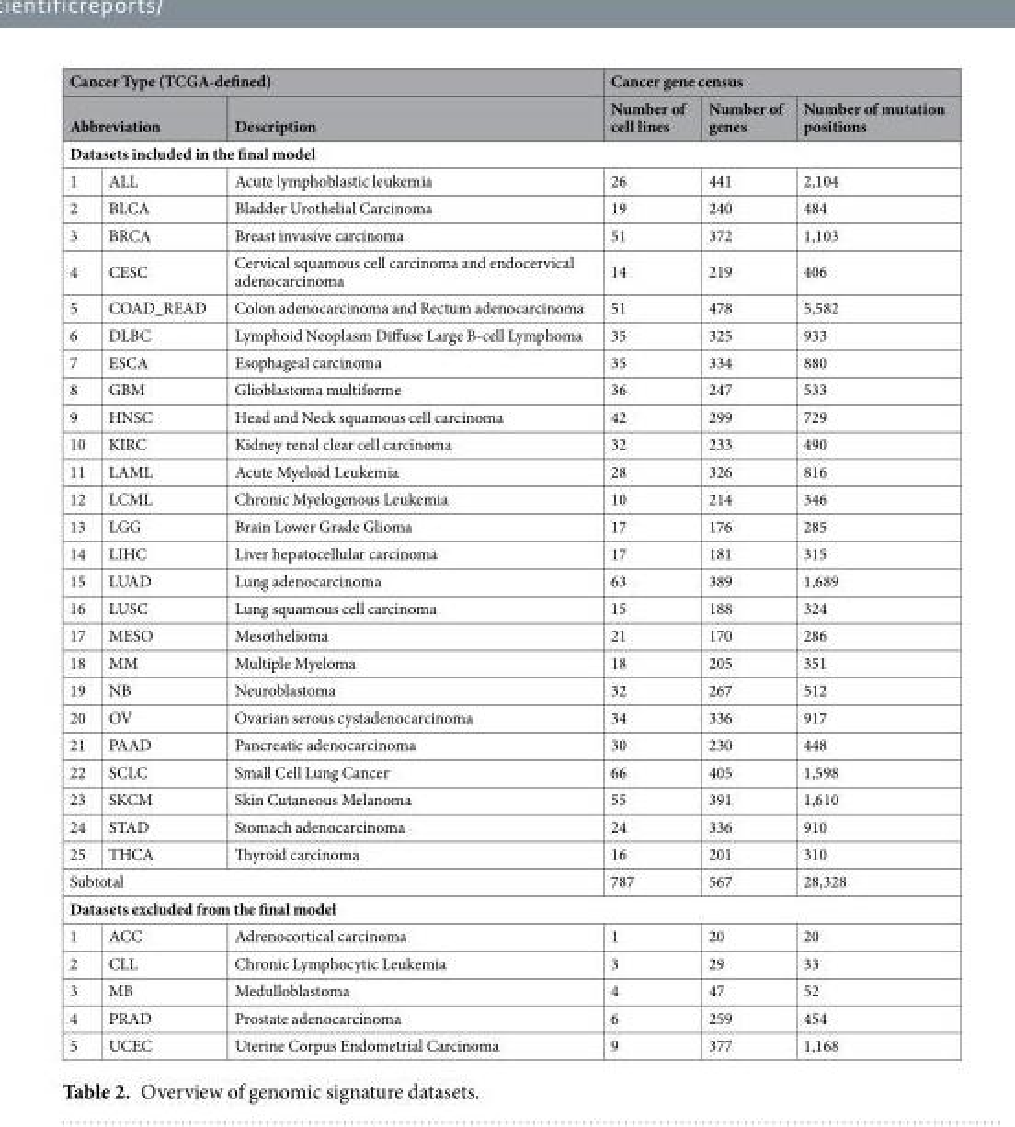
<table><thead><tr><td colspan="3">Cancer Type (TCGA-defined)</td><td colspan="3">Cancer gene census</td></tr><tr><td colspan="2">Abbreviation</td><td>Description</td><td>Number of cell lines</td><td>Number of genes</td><td>Number of mutation positions</td></tr><tr><td colspan="6">Datasets included in the final model</td></tr><tr><td>1</td><td>ALL</td><td>Acute lymphoblastic leukemia</td><td>26</td><td>441</td><td>2,104</td></tr></thead><tbody><tr><td>2</td><td>BLCA</td><td>Bladder Urothelial Carcinoma</td><td>19</td><td>240</td><td>484</td></tr><tr><td>3</td><td>BRCA</td><td>Breast invasive carcinoma</td><td>51</td><td>372</td><td>1,103</td></tr><tr><td>4</td><td>CESC</td><td>Cervical squamous cell carcinoma and endocervical adenocarcinoma</td><td>14</td><td>219</td><td>406</td></tr><tr><td>5</td><td>COAD_READ</td><td>Colon adenocarcinoma and Rectum adenocarcinoma</td><td>51</td><td>478</td><td>5,582</td></tr><tr><td>6</td><td>DLBC</td><td>Lymphoid Neoplasm Diffuse Large B-cell Lymphoma</td><td>35</td><td>325</td><td>933</td></tr><tr><td>7</td><td>ESCA</td><td>Esophageal carcinoma</td><td>35</td><td>334</td><td>880</td></tr><tr><td>8</td><td>GBM</td><td>Glioblastoma multiforme</td><td>36</td><td>247</td><td>533</td></tr><tr><td>9</td><td>HNSC</td><td>Head and Neck squamous cell carcinoma</td><td>42</td><td>299</td><td>729</td></tr><tr><td>10</td><td>KIRC</td><td>Kidney renal clear cell carcinoma</td><td>32</td><td>233</td><td>490</td></tr><tr><td>11</td><td>LAML</td><td>Acute Myeloid Leukemia</td><td>28</td><td>326</td><td>816</td></tr><tr><td>12</td><td>LCML</td><td>Chronic Myelogenous Leukemia</td><td>10</td><td>214</td><td>346</td></tr><tr><td>13</td><td>LGG</td><td>Brain Lower Grade Glioma</td><td>17</td><td>176</td><td>285</td></tr><tr><td>14</td><td>LIHC</td><td>Liver hepatocellular carcinoma</td><td>17</td><td>181</td><td>315</td></tr><tr><td>15</td><td>LUAD</td><td>Lung adenocarcinoma</td><td>63</td><td>389</td><td>1,689</td></tr><tr><td>16</td><td>LUSC</td><td>Lung squamous cell carcinoma</td><td>15</td><td>188</td><td>324</td></tr><tr><td>17</td><td>MESO</td><td>Mesothelioma</td><td>21</td><td>170</td><td>286</td></tr><tr><td>18</td><td>MM</td><td>Multiple Myeloma</td><td>18</td><td>205</td><td>351</td></tr><tr><td>19</td><td>NB</td><td>Neuroblastoma</td><td>32</td><td>267</td><td>512</td></tr><tr><td>20</td><td>OV</td><td>Ovarian serous cystadenocarcinoma</td><td>34</td><td>336</td><td>917</td></tr><tr><td>21</td><td>PAAD</td><td>Pancreatic adenocarcinoma</td><td>30</td><td>230</td><td>448</td></tr><tr><td>22</td><td>SCLC</td><td>Small Cell Lung Cancer</td><td>66</td><td>405</td><td>1,598</td></tr><tr><td>23</td><td>SKCM</td><td>Skin Cutaneous Melanoma</td><td>55</td><td>391</td><td>1,610</td></tr><tr><td>24</td><td>STAD</td><td>Stomach adenocarcinoma</td><td>24</td><td>336</td><td>910</td></tr><tr><td>25</td><td>THCA</td><td>Thyroid carcinoma</td><td>16</td><td>201</td><td>310</td></tr><tr><td colspan="3">Subtotal</td><td>787</td><td>567</td><td>28,328</td></tr><tr><td colspan="6">Datasets excluded from the final model</td></tr><tr><td>1</td><td>ACC</td><td>Adrenocortical carcinoma</td><td>1</td><td>20</td><td>20</td></tr><tr><td>2</td><td>CLL</td><td>Chronic Lymphocytic Leukemia</td><td>3</td><td>29</td><td>33</td></tr><tr><td>3</td><td>MB</td><td>Medulloblastoma</td><td>4</td><td>47</td><td>52</td></tr><tr><td>4</td><td>PRAD</td><td>Prostate adenocarcinoma</td><td>6</td><td>259</td><td>454</td></tr><tr><td>5</td><td>UCEC</td><td>Uterine Corpus Endometrial Carcinoma</td><td>9</td><td>377</td><td>1,168</td></tr></tbody></table>